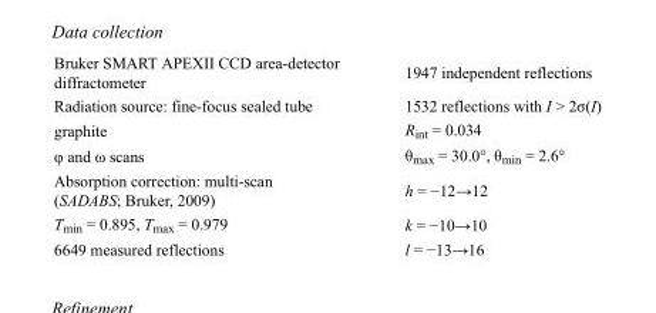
<table><tbody><tr><td>Bruker SMART APEXII CCD area-detector diffractometer</td><td>1947 independent reflections</td></tr><tr><td>Radiation source: fine-focus sealed tube</td><td>1532 reflections with I &gt; 2σ(I)</td></tr><tr><td>graphite</td><td>R<sub>int</sub> = 0.034</td></tr><tr><td>φ and ω scans</td><td>θ<sub>max</sub> = 30.0°, θ<sub>min</sub> = 2.6°</td></tr><tr><td>Absorption correction: multi-scan (SADABS; Bruker, 2009)</td><td>h = −12→12</td></tr><tr><td>T<sub>min</sub> = 0.895, T<sub>max</sub> = 0.979</td><td>k = −10→10</td></tr><tr><td>6649 measured reflections</td><td>l = −13→16</td></tr></tbody></table>